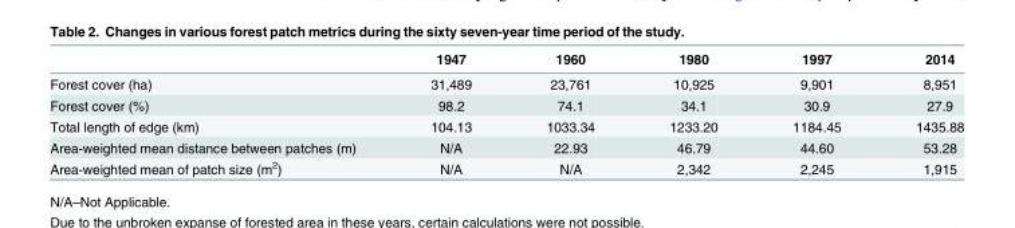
<table><thead><tr><td></td><td>1947</td><td>1960</td><td>1980</td><td>1997</td><td>2014</td></tr></thead><tbody><tr><td>Forest cover (ha)</td><td>31,489</td><td>23,761</td><td>10,925</td><td>9,901</td><td>8,951</td></tr><tr><td>Forest cover (%)</td><td>98.2</td><td>74.1</td><td>34.1</td><td>30.9</td><td>27.9</td></tr><tr><td>Total length of edge (km)</td><td>104.13</td><td>1033.34</td><td>1233.20</td><td>1184.45</td><td>1435.88</td></tr><tr><td>Area-weighted mean distance between patches (m)</td><td>N/A</td><td>22.93</td><td>46.79</td><td>44.60</td><td>53.28</td></tr><tr><td>Area-weighted mean of patch size (m<sup>2</sup>)</td><td>N/A</td><td>N/A</td><td>2,342</td><td>2,245</td><td>1,915</td></tr></tbody></table>